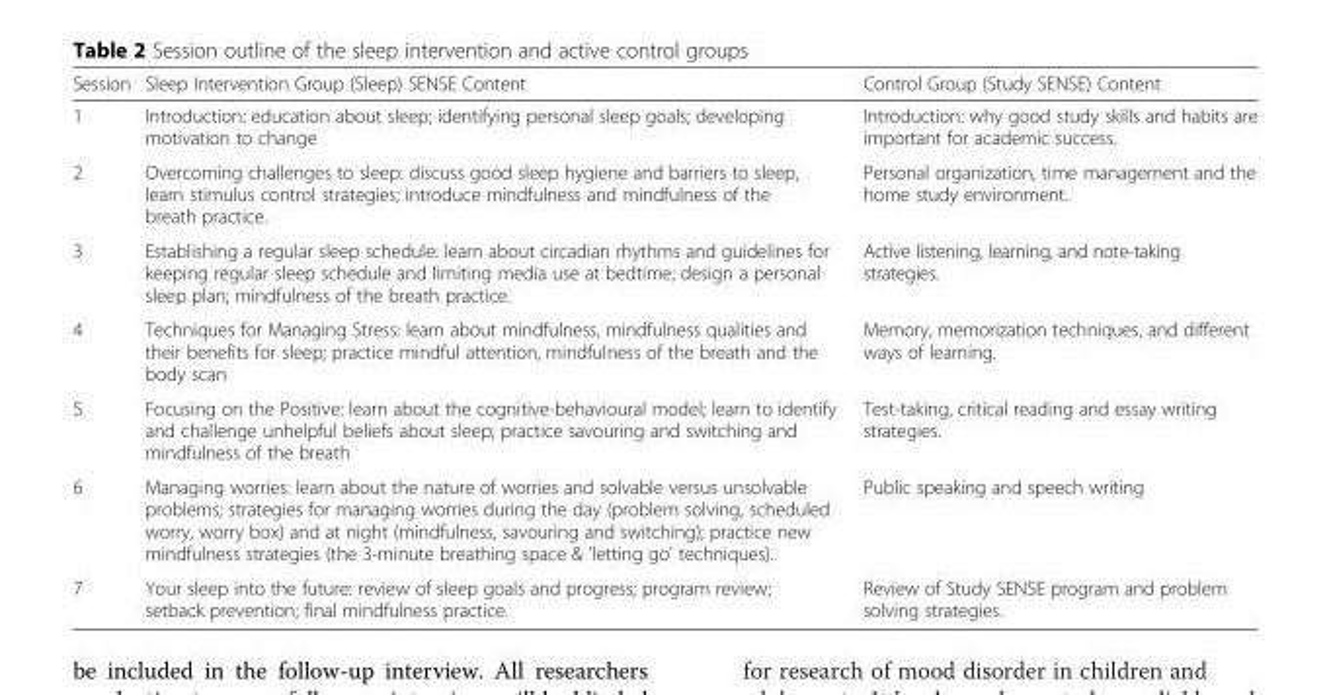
<table><thead><tr><td>Session</td><td>Sleep Intervention Group (Sleep) SENSE Content</td><td>Control Group (Study SENSE) Content</td></tr></thead><tbody><tr><td>1</td><td>Introduction: education about sleep; identifying personal sleep goals; developing motivation to change</td><td>Introduction: why good study skills and habits are important for academic success.</td></tr><tr><td>2</td><td>Overcoming challenges to sleep: discuss good sleep hygiene and barriers to sleep, learn stimulus control strategies; introduce mindfulness and mindfulness of the breath practice.</td><td>Personal organization, time management and the home study environment.</td></tr><tr><td>3</td><td>Establishing a regular sleep schedule: learn about circadian rhythms and guidelines for keeping regular sleep schedule and limiting media use at bedtime; design a personal sleep plan; mindfulness of the breath practice.</td><td>Active listening, learning, and note-taking strategies.</td></tr><tr><td>4</td><td>Techniques for Managing Stress: learn about mindfulness, mindfulness qualities and their benefits for sleep; practice mindful attention, mindfulness of the breath and the body scan</td><td>Memory, memorization techniques, and different ways of learning.</td></tr><tr><td>5</td><td>Focusing on the Positive: learn about the cognitive-behavioural model; learn to identify and challenge unhelpful beliefs about sleep; practice savouring and switching and mindfulness of the breath</td><td>Test-taking, critical reading and essay writing strategies.</td></tr><tr><td>6</td><td>Managing worries: learn about the nature of worries and solvable versus unsolvable problems; strategies for managing worries during the day (problem solving, scheduled worry, worry box) and at night (mindfulness, savouring and switching); practice new mindfulness strategies (the 3-minute breathing space &amp; &#x27;letting go&#x27; techniques).</td><td>Public speaking and speech writing</td></tr><tr><td>7</td><td>Your sleep into the future: review of sleep goals and progress; program review; setback prevention; final mindfulness practice.</td><td>Review of Study SENSE program and problem solving strategies.</td></tr></tbody></table>